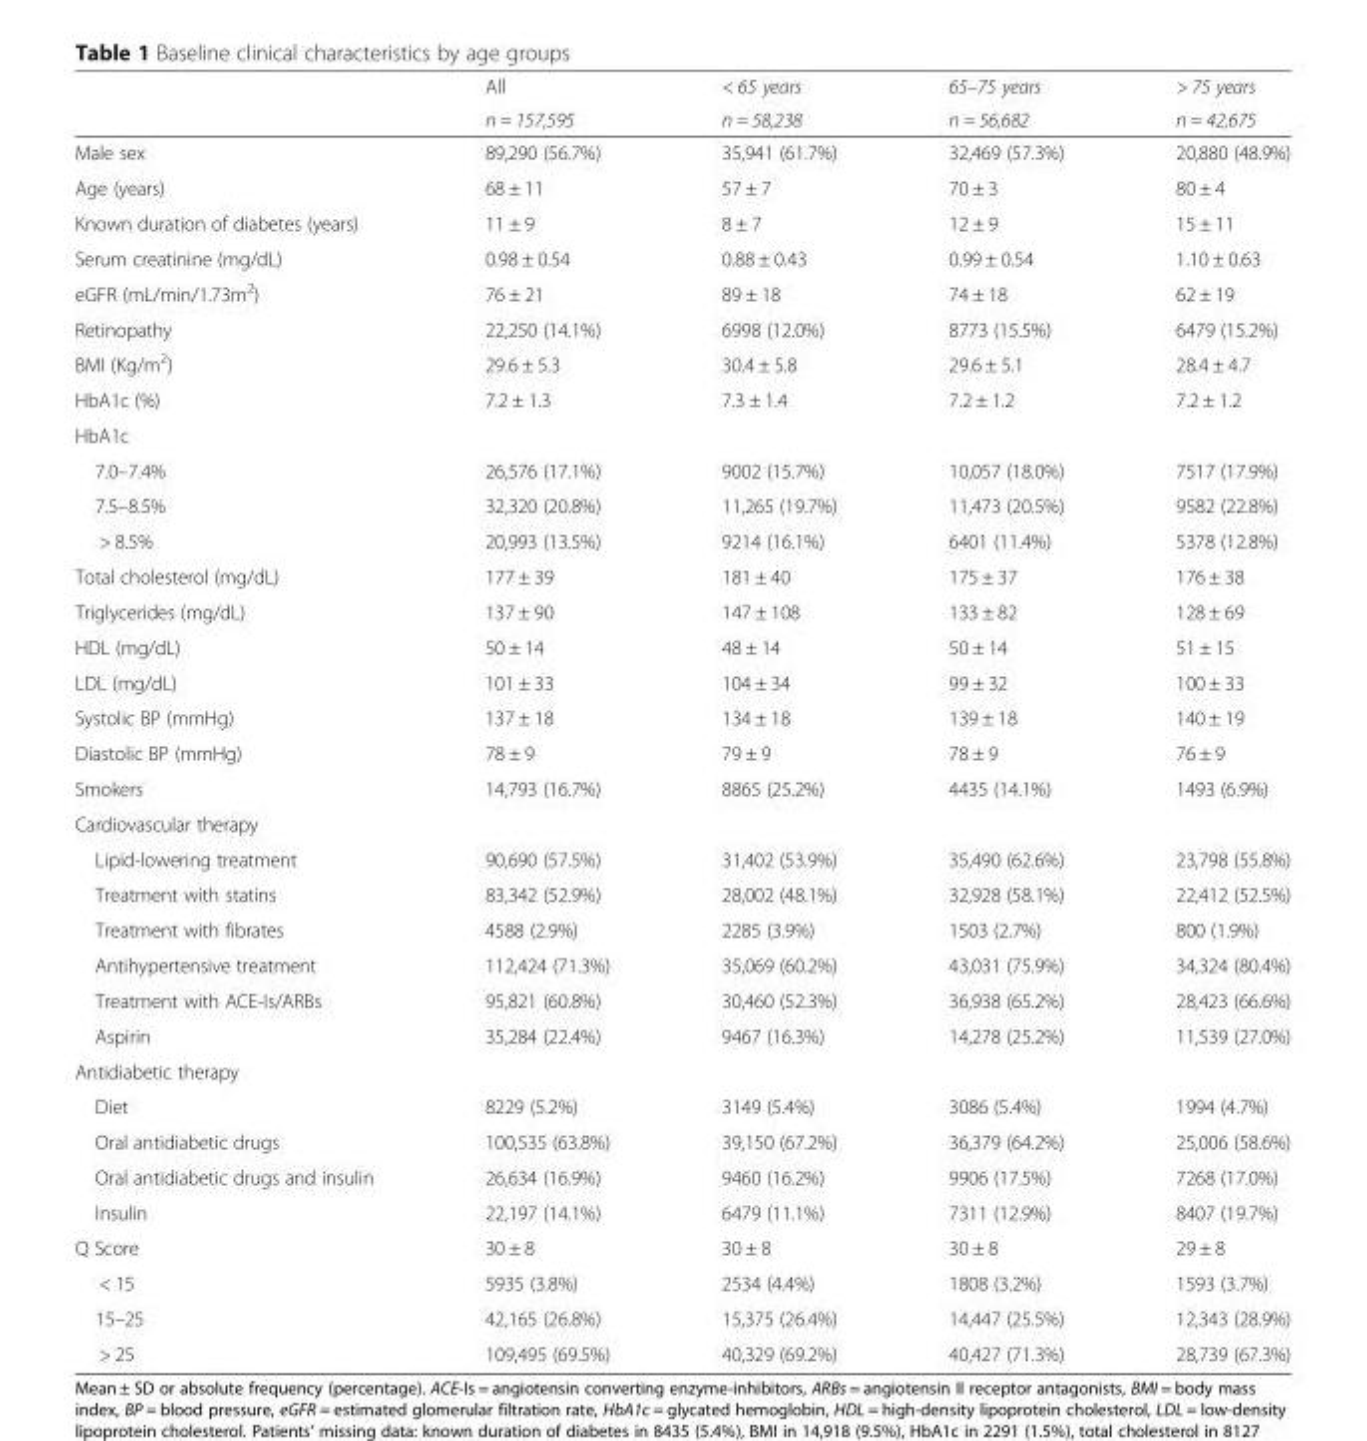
<table><thead><tr><td rowspan="2"></td><td rowspan="2">All n = 157,595</td><td rowspan="2">&lt; 65 years n = 58,238</td><td rowspan="2">65–75 years n = 56,682</td><td rowspan="2">&gt; 75 years n = 42,675</td></tr><tr></tr></thead><tbody><tr><td>Male sex</td><td>89,290 (56.7%)</td><td>35,941 (61.7%)</td><td>32,469 (57.3%)</td><td>20,880 (48.9%)</td></tr><tr><td>Age (years)</td><td>68 ± 11</td><td>57 ± 7</td><td>70 ± 3</td><td>80 ± 4</td></tr><tr><td>Known duration of diabetes (years)</td><td>11 ± 9</td><td>8 ± 7</td><td>12 ± 9</td><td>15 ± 11</td></tr><tr><td>Serum creatinine (mg/dL)</td><td>0.98 ± 0.54</td><td>0.88 ± 0.43</td><td>0.99 ± 0.54</td><td>1.10 ± 0.63</td></tr><tr><td>eGFR (mL/min/1.73m<sup>2</sup>)</td><td>76 ± 21</td><td>89 ± 18</td><td>74 ± 18</td><td>62 ± 19</td></tr><tr><td>Retinopathy</td><td>22,250 (14.1%)</td><td>6998 (12.0%)</td><td>8773 (15.5%)</td><td>6479 (15.2%)</td></tr><tr><td>BMI (Kg/m<sup>2</sup>)</td><td>29.6 ± 5.3</td><td>30.4 ± 5.8</td><td>29.6 ± 5.1</td><td>28.4 ± 4.7</td></tr><tr><td>HbA1c (%)</td><td>7.2 ± 1.3</td><td>7.3 ± 1.4</td><td>7.2 ± 1.2</td><td>7.2 ± 1.2</td></tr><tr><td colspan="5">HbA1c</td></tr><tr><td>7.0–7.4%</td><td>26,576 (17.1%)</td><td>9002 (15.7%)</td><td>10,057 (18.0%)</td><td>7517 (17.9%)</td></tr><tr><td>7.5–8.5%</td><td>32,320 (20.8%)</td><td>11,265 (19.7%)</td><td>11,473 (20.5%)</td><td>9582 (22.8%)</td></tr><tr><td>&gt; 8.5%</td><td>20,993 (13.5%)</td><td>9214 (16.1%)</td><td>6401 (11.4%)</td><td>5378 (12.8%)</td></tr><tr><td>Total cholesterol (mg/dL)</td><td>177 ± 39</td><td>181 ± 40</td><td>175 ± 37</td><td>176 ± 38</td></tr><tr><td>Triglycerides (mg/dL)</td><td>137 ± 90</td><td>147 ± 108</td><td>133 ± 82</td><td>128 ± 69</td></tr><tr><td>HDL (mg/dL)</td><td>50 ± 14</td><td>48 ± 14</td><td>50 ± 14</td><td>51 ± 15</td></tr><tr><td>LDL (mg/dL)</td><td>101 ± 33</td><td>104 ± 34</td><td>99 ± 32</td><td>100 ± 33</td></tr><tr><td>Systolic BP (mmHg)</td><td>137 ± 18</td><td>134 ± 18</td><td>139 ± 18</td><td>140 ± 19</td></tr><tr><td>Diastolic BP (mmHg)</td><td>78 ± 9</td><td>79 ± 9</td><td>78 ± 9</td><td>76 ± 9</td></tr><tr><td>Smokers</td><td>14,793 (16.7%)</td><td>8865 (25.2%)</td><td>4435 (14.1%)</td><td>1493 (6.9%)</td></tr><tr><td colspan="5">Cardiovascular therapy</td></tr><tr><td>Lipid-lowering treatment</td><td>90,690 (57.5%)</td><td>31,402 (53.9%)</td><td>35,490 (62.6%)</td><td>23,798 (55.8%)</td></tr><tr><td>Treatment with statins</td><td>83,342 (52.9%)</td><td>28,002 (48.1%)</td><td>32,928 (58.1%)</td><td>22,412 (52.5%)</td></tr><tr><td>Treatment with fibrates</td><td>4588 (2.9%)</td><td>2285 (3.9%)</td><td>1503 (2.7%)</td><td>800 (1.9%)</td></tr><tr><td>Antihypertensive treatment</td><td>112,424 (71.3%)</td><td>35,069 (60.2%)</td><td>43,031 (75.9%)</td><td>34,324 (80.4%)</td></tr><tr><td>Treatment with ACE-Is/ARBs</td><td>95,821 (60.8%)</td><td>30,460 (52.3%)</td><td>36,938 (65.2%)</td><td>28,423 (66.6%)</td></tr><tr><td>Aspirin</td><td>35,284 (22.4%)</td><td>9467 (16.3%)</td><td>14,278 (25.2%)</td><td>11,539 (27.0%)</td></tr><tr><td colspan="5">Antidiabetic therapy</td></tr><tr><td>Diet</td><td>8229 (5.2%)</td><td>3149 (5.4%)</td><td>3086 (5.4%)</td><td>1994 (4.7%)</td></tr><tr><td>Oral antidiabetic drugs</td><td>100,535 (63.8%)</td><td>39,150 (67.2%)</td><td>36,379 (64.2%)</td><td>25,006 (58.6%)</td></tr><tr><td>Oral antidiabetic drugs and insulin</td><td>26,634 (16.9%)</td><td>9460 (16.2%)</td><td>9906 (17.5%)</td><td>7268 (17.0%)</td></tr><tr><td>Insulin</td><td>22,197 (14.1%)</td><td>6479 (11.1%)</td><td>7311 (12.9%)</td><td>8407 (19.7%)</td></tr><tr><td>Q Score</td><td>30 ± 8</td><td>30 ± 8</td><td>30 ± 8</td><td>29 ± 8</td></tr><tr><td>&lt; 15</td><td>5935 (3.8%)</td><td>2534 (4.4%)</td><td>1808 (3.2%)</td><td>1593 (3.7%)</td></tr><tr><td>15–25</td><td>42,165 (26.8%)</td><td>15,375 (26.4%)</td><td>14,447 (25.5%)</td><td>12,343 (28.9%)</td></tr><tr><td>&gt; 25</td><td>109,495 (69.5%)</td><td>40,329 (69.2%)</td><td>40,427 (71.3%)</td><td>28,739 (67.3%)</td></tr></tbody></table>